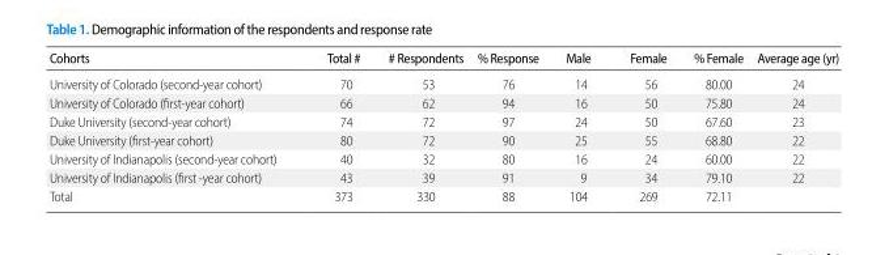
<table><thead><tr><td>Cohorts</td><td>Total #</td><td># Respondents</td><td>% Response</td><td>Male</td><td>Female</td><td>% Female</td><td>Average age (yr)</td></tr></thead><tbody><tr><td>University of Colorado (second-year cohort)</td><td>70</td><td>53</td><td>76</td><td>14</td><td>56</td><td>80.00</td><td>24</td></tr><tr><td>University of Colorado (first-year cohort)</td><td>66</td><td>62</td><td>94</td><td>16</td><td>50</td><td>75.80</td><td>24</td></tr><tr><td>Duke University (second-year cohort)</td><td>74</td><td>72</td><td>97</td><td>24</td><td>50</td><td>67.60</td><td>23</td></tr><tr><td>Duke University (first-year cohort)</td><td>80</td><td>72</td><td>90</td><td>25</td><td>55</td><td>68.80</td><td>22</td></tr><tr><td>University of Indianapolis (second-year cohort)</td><td>40</td><td>32</td><td>80</td><td>16</td><td>24</td><td>60.00</td><td>22</td></tr><tr><td>University of Indianapolis (first -year cohort)</td><td>43</td><td>39</td><td>91</td><td>9</td><td>34</td><td>79.10</td><td>22</td></tr><tr><td>Total</td><td>373</td><td>330</td><td>88</td><td>104</td><td>269</td><td>72.11</td><td></td></tr></tbody></table>